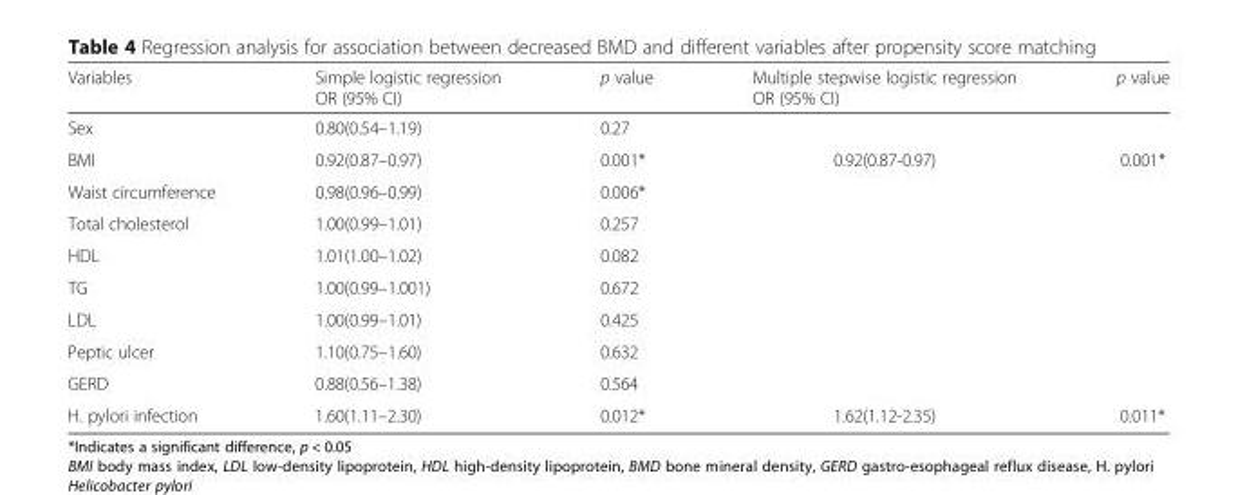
<table><thead><tr><td>Variables</td><td>Simple logistic regression OR (95% CI)</td><td>p value</td><td>Multiple stepwise logistic regression OR (95% CI)</td><td>p value</td></tr></thead><tbody><tr><td>Sex</td><td>0.80(0.54–1.19)</td><td>0.27</td><td></td><td></td></tr><tr><td>BMI</td><td>0.92(0.87–0.97)</td><td>0.001*</td><td>0.92(0.87-0.97)</td><td>0.001*</td></tr><tr><td>Waist circumference</td><td>0.98(0.96–0.99)</td><td>0.006*</td><td></td><td></td></tr><tr><td>Total cholesterol</td><td>1.00(0.99–1.01)</td><td>0.257</td><td></td><td></td></tr><tr><td>HDL</td><td>1.01(1.00–1.02)</td><td>0.082</td><td></td><td></td></tr><tr><td>TG</td><td>1.00(0.99–1.001)</td><td>0.672</td><td></td><td></td></tr><tr><td>LDL</td><td>1.00(0.99–1.01)</td><td>0.425</td><td></td><td></td></tr><tr><td>Peptic ulcer</td><td>1.10(0.75–1.60)</td><td>0.632</td><td></td><td></td></tr><tr><td>GERD</td><td>0.88(0.56–1.38)</td><td>0.564</td><td></td><td></td></tr><tr><td>H. pylori infection</td><td>1.60(1.11–2.30)</td><td>0.012*</td><td>1.62(1.12-2.35)</td><td>0.011*</td></tr></tbody></table>